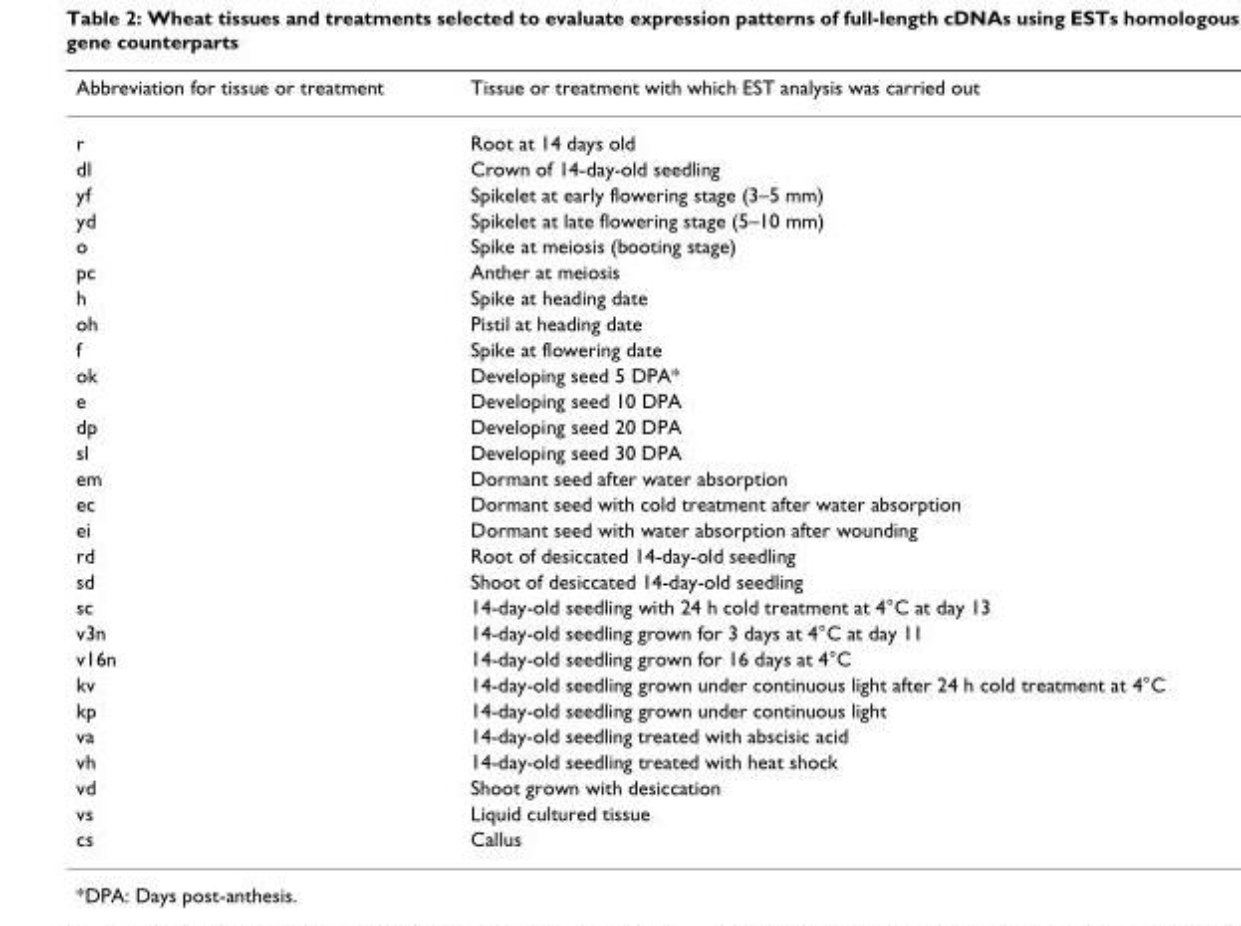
<table><thead><tr><td>Abbreviation for tissue or treatment</td><td>Tissue or treatment with which EST analysis was carried out</td></tr></thead><tbody><tr><td>r</td><td>Root at 14 days old</td></tr><tr><td>dl</td><td>Crown of 14-day-old seedling</td></tr><tr><td>yf</td><td>Spikelet at early flowering stage (3–5 mm)</td></tr><tr><td>yd</td><td>Spikelet at late flowering stage (5–10 mm)</td></tr><tr><td>o</td><td>Spike at meiosis (booting stage)</td></tr><tr><td>pc</td><td>Anther at meiosis</td></tr><tr><td>h</td><td>Spike at heading date</td></tr><tr><td>oh</td><td>Pistil at heading date</td></tr><tr><td>f</td><td>Spike at flowering date</td></tr><tr><td>ok</td><td>Developing seed 5 DPA*</td></tr><tr><td>e</td><td>Developing seed 10 DPA</td></tr><tr><td>dp</td><td>Developing seed 20 DPA</td></tr><tr><td>sl</td><td>Developing seed 30 DPA</td></tr><tr><td>em</td><td>Dormant seed after water absorption</td></tr><tr><td>ec</td><td>Dormant seed with cold treatment after water absorption</td></tr><tr><td>ei</td><td>Dormant seed with water absorption after wounding</td></tr><tr><td>rd</td><td>Root of desiccated 14-day-old seedling</td></tr><tr><td>sd</td><td>Shoot of desiccated 14-day-old seedling</td></tr><tr><td>sc</td><td>14-day-old seedling with 24 h cold treatment at 4°C at day 13</td></tr><tr><td>v3n</td><td>14-day-old seedling grown for 3 days at 4°C at day 11</td></tr><tr><td>v16n</td><td>14-day-old seedling grown for 16 days at 4°C</td></tr><tr><td>kv</td><td>14-day-old seedling grown under continuous light after 24 h cold treatment at 4°C</td></tr><tr><td>kp</td><td>14-day-old seedling grown under continuous light</td></tr><tr><td>va</td><td>14-day-old seedling treated with abscisic acid</td></tr><tr><td>vh</td><td>14-day-old seedling treated with heat shock</td></tr><tr><td>vd</td><td>Shoot grown with desiccation</td></tr><tr><td>vs</td><td>Liquid cultured tissue</td></tr><tr><td>cs</td><td>Callus</td></tr></tbody></table>